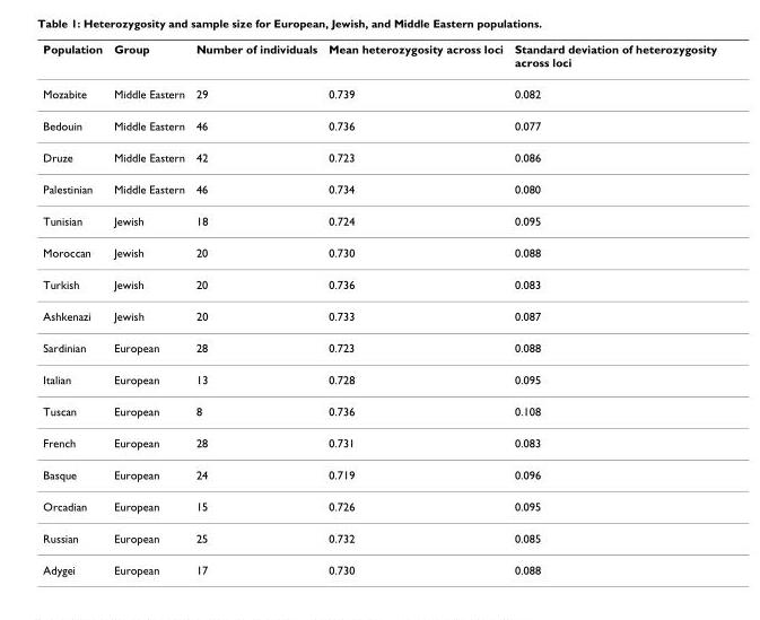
<table><thead><tr><td>Population</td><td>Group</td><td>Number of individuals</td><td>Mean heterozygosity across loci</td><td>Standard deviation of heterozygosity across loci</td></tr></thead><tbody><tr><td>Mozabite</td><td>Middle Eastern</td><td>29</td><td>0.739</td><td>0.082</td></tr><tr><td>Bedouin</td><td>Middle Eastern</td><td>46</td><td>0.736</td><td>0.077</td></tr><tr><td>Druze</td><td>Middle Eastern</td><td>42</td><td>0.723</td><td>0.086</td></tr><tr><td>Palestinian</td><td>Middle Eastern</td><td>46</td><td>0.734</td><td>0.080</td></tr><tr><td>Tunisian</td><td>Jewish</td><td>18</td><td>0.724</td><td>0.095</td></tr><tr><td>Moroccan</td><td>Jewish</td><td>20</td><td>0.730</td><td>0.088</td></tr><tr><td>Turkish</td><td>Jewish</td><td>20</td><td>0.736</td><td>0.083</td></tr><tr><td>Ashkenazi</td><td>Jewish</td><td>20</td><td>0.733</td><td>0.087</td></tr><tr><td>Sardinian</td><td>European</td><td>28</td><td>0.723</td><td>0.088</td></tr><tr><td>Italian</td><td>European</td><td>13</td><td>0.728</td><td>0.095</td></tr><tr><td>Tuscan</td><td>European</td><td>8</td><td>0.736</td><td>0.108</td></tr><tr><td>French</td><td>European</td><td>28</td><td>0.731</td><td>0.083</td></tr><tr><td>Basque</td><td>European</td><td>24</td><td>0.719</td><td>0.096</td></tr><tr><td>Orcadian</td><td>European</td><td>15</td><td>0.726</td><td>0.095</td></tr><tr><td>Russian</td><td>European</td><td>25</td><td>0.732</td><td>0.085</td></tr><tr><td>Adygei</td><td>European</td><td>17</td><td>0.730</td><td>0.088</td></tr></tbody></table>